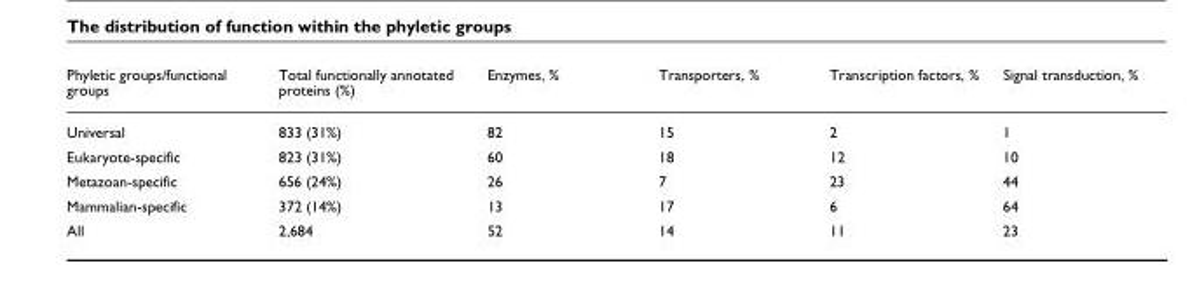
<table><thead><tr><td>Phyletic groups/functional groups</td><td>Total functionally annotated proteins (%)</td><td>Enzymes, %</td><td>Transporters, %</td><td>Transcription factors, %</td><td>Signal transduction, %</td></tr></thead><tbody><tr><td>Universal</td><td>833 (31%)</td><td>82</td><td>15</td><td>2</td><td>1</td></tr><tr><td>Eukaryote-specific</td><td>823 (31%)</td><td>60</td><td>18</td><td>12</td><td>10</td></tr><tr><td>Metazoan-specific</td><td>656 (24%)</td><td>26</td><td>7</td><td>23</td><td>44</td></tr><tr><td>Mammalian-specific</td><td>372 (14%)</td><td>13</td><td>17</td><td>6</td><td>64</td></tr><tr><td>All</td><td>2,684</td><td>52</td><td>14</td><td>11</td><td>23</td></tr></tbody></table>